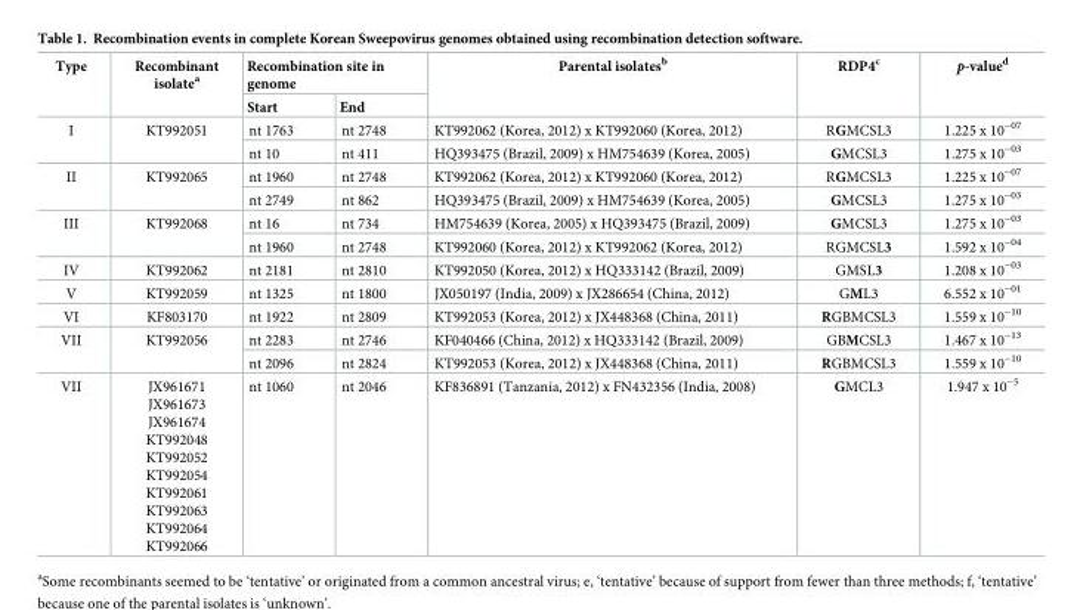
<table><thead><tr><td rowspan="2">Type</td><td rowspan="2">Recombinant isolate<sup>a</sup></td><td colspan="2">Recombination site in genome</td><td rowspan="2">Parental isolates<sup>b</sup></td><td rowspan="2">RDP4<sup>c</sup></td><td rowspan="2">p-value<sup>d</sup></td></tr><tr><td>Start</td><td>End</td></tr></thead><tbody><tr><td rowspan="2">I</td><td rowspan="2">KT992051</td><td>nt 1763</td><td>nt 2748</td><td>KT992062 (Korea, 2012) x KT992060 (Korea, 2012)</td><td>RGMCSL3</td><td>1.225 x 10<sup>−07</sup></td></tr><tr><td>nt 10</td><td>nt 411</td><td>HQ393475 (Brazil, 2009) x HM754639 (Korea, 2005)</td><td>GMCSL3</td><td>1.275 x 10<sup>−03</sup></td></tr><tr><td rowspan="2">II</td><td rowspan="2">KT992065</td><td>nt 1960</td><td>nt 2748</td><td>KT992062 (Korea, 2012) x KT992060 (Korea, 2012)</td><td>RGMCSL3</td><td>1.225 x 10<sup>−07</sup></td></tr><tr><td>nt 2749</td><td>nt 862</td><td>HQ393475 (Brazil, 2009) x HM754639 (Korea, 2005)</td><td>GMCSL3</td><td>1.275 x 10<sup>−03</sup></td></tr><tr><td rowspan="2">III</td><td rowspan="2">KT992068</td><td>nt 16</td><td>nt 734</td><td>HM754639 (Korea, 2005) x HQ393475 (Brazil, 2009)</td><td>GMCSL3</td><td>1.275 x 10<sup>−03</sup></td></tr><tr><td>nt 1960</td><td>nt 2748</td><td>KT992060 (Korea, 2012) x KT992062 (Korea, 2012)</td><td>RGMCSL3</td><td>1.592 x 10<sup>−04</sup></td></tr><tr><td>IV</td><td>KT992062</td><td>nt 2181</td><td>nt 2810</td><td>KT992050 (Korea, 2012) x HQ333142 (Brazil, 2009)</td><td>GMSL3</td><td>1.208 x 10<sup>−03</sup></td></tr><tr><td>V</td><td>KT992059</td><td>nt 1325</td><td>nt 1800</td><td>JX050197 (India, 2009) x JX286654 (China, 2012)</td><td>GML3</td><td>6.552 x 10<sup>−01</sup></td></tr><tr><td>VI</td><td>KF803170</td><td>nt 1922</td><td>nt 2809</td><td>KT992053 (Korea, 2012) x JX448368 (China, 2011)</td><td>RGBMCSL3</td><td>1.559 x 10<sup>−10</sup></td></tr><tr><td rowspan="2">VII</td><td rowspan="2">KT992056</td><td>nt 2283</td><td>nt 2746</td><td>KF040466 (China, 2012) x HQ333142 (Brazil, 2009)</td><td>GBMCSL3</td><td>1.467 x 10<sup>−13</sup></td></tr><tr><td>nt 2096</td><td>nt 2824</td><td>KT992053 (Korea, 2012) x JX448368 (China, 2011)</td><td>RGBMCSL3</td><td>1.559 x 10<sup>−10</sup></td></tr><tr><td>VII</td><td>JX961671 JX961673 JX961674 KT992048 KT992052 KT992054 KT992061 KT992063 KT992064 KT992066</td><td>nt 1060</td><td>nt 2046</td><td>KF836891 (Tanzania, 2012) x FN432356 (India, 2008)</td><td>GMCL3</td><td>1.947 x 10<sup>−5</sup></td></tr></tbody></table>